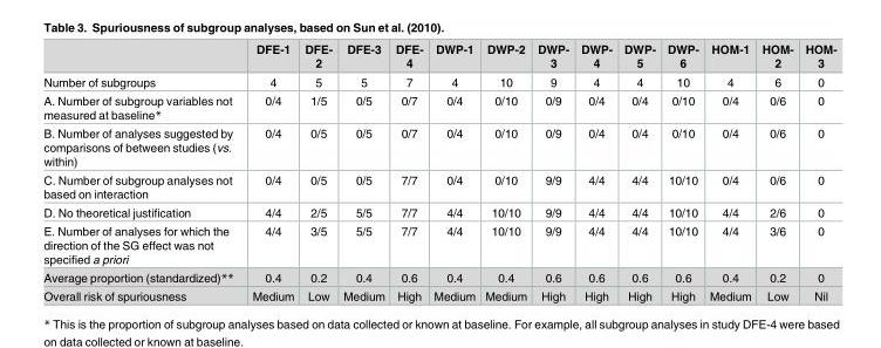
<table><thead><tr><td></td><td>DFE-1</td><td>DFE- 2</td><td>DFE-3</td><td>DFE- 4</td><td>DWP-1</td><td>DWP-2</td><td>DWP- 3</td><td>DWP- 4</td><td>DWP- 5</td><td>DWP- 6</td><td>HOM-1</td><td>HOM- 2</td><td>HOM- 3</td></tr></thead><tbody><tr><td>Number of subgroups</td><td>4</td><td>5</td><td>5</td><td>7</td><td>4</td><td>10</td><td>9</td><td>4</td><td>4</td><td>10</td><td>4</td><td>6</td><td>0</td></tr><tr><td>A. Number of subgroup variables not measured at baseline*</td><td>0/4</td><td>1/5</td><td>0/5</td><td>0/7</td><td>0/4</td><td>0/10</td><td>0/9</td><td>0/4</td><td>0/4</td><td>0/10</td><td>0/4</td><td>0/6</td><td>0</td></tr><tr><td>B. Number of analyses suggested by comparisons of between studies (vs. within)</td><td>0/4</td><td>0/5</td><td>0/5</td><td>0/7</td><td>0/4</td><td>0/10</td><td>0/9</td><td>0/4</td><td>0/4</td><td>0/10</td><td>0/4</td><td>0/6</td><td>0</td></tr><tr><td>C. Number of subgroup analyses not based on interaction</td><td>0/4</td><td>0/5</td><td>0/5</td><td>7/7</td><td>0/4</td><td>0/10</td><td>9/9</td><td>4/4</td><td>4/4</td><td>10/10</td><td>0/4</td><td>0/6</td><td>0</td></tr><tr><td>D. No theoretical justification</td><td>4/4</td><td>2/5</td><td>5/5</td><td>7/7</td><td>4/4</td><td>10/10</td><td>9/9</td><td>4/4</td><td>4/4</td><td>10/10</td><td>4/4</td><td>2/6</td><td>0</td></tr><tr><td>E. Number of analyses for which the direction of the SG effect was not specified a priori</td><td>4/4</td><td>3/5</td><td>5/5</td><td>7/7</td><td>4/4</td><td>10/10</td><td>9/9</td><td>4/4</td><td>4/4</td><td>10/10</td><td>4/4</td><td>3/6</td><td>0</td></tr><tr><td>Average proportion (standardized)**</td><td>0.4</td><td>0.2</td><td>0.4</td><td>0.6</td><td>0.4</td><td>0.4</td><td>0.6</td><td>0.6</td><td>0.6</td><td>0.6</td><td>0.4</td><td>0.2</td><td>0</td></tr><tr><td>Overall risk of spuriousness</td><td>Medium</td><td>Low</td><td>Medium</td><td>High</td><td>Medium</td><td>Medium</td><td>High</td><td>High</td><td>High</td><td>High</td><td>Medium</td><td>Low</td><td>Nil</td></tr></tbody></table>